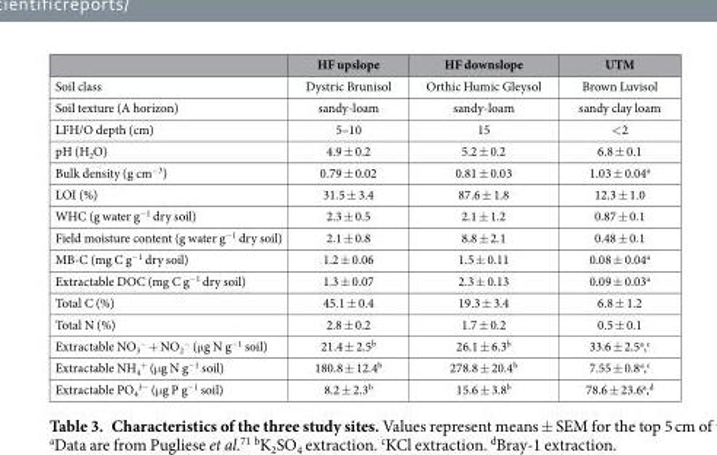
<table><thead><tr><td></td><td>HF upslope</td><td>HF downslope</td><td>UTM</td></tr></thead><tbody><tr><td>Soil class</td><td>Dystric Brunisol</td><td>Orthic Humic Gleysol</td><td>Brown Luvisol</td></tr><tr><td>Soil texture (A horizon)</td><td>sandy-loam</td><td>sandy-loam</td><td>sandy clay loam</td></tr><tr><td>LFH/O depth (cm)</td><td>5–10</td><td>15</td><td>&lt; 2</td></tr><tr><td>pH (H<sub>2</sub>O)</td><td>4.9 ± 0.2</td><td>5.2 ± 0.2</td><td>6.8 ± 0.1</td></tr><tr><td>Bulk density (g cm<sup>−3</sup>)</td><td>0.79 ± 0.02</td><td>0.81 ± 0.03</td><td>1.03 ± 0.04<sup>a</sup></td></tr><tr><td>LOI (%)</td><td>31.5 ± 3.4</td><td>87.6 ± 1.8</td><td>12.3 ± 1.0</td></tr><tr><td>WHC (g water g<sup>−1</sup> dry soil)</td><td>2.3 ± 0.5</td><td>2.1 ± 1.2</td><td>0.87 ± 0.1</td></tr><tr><td>Field moisture content (g water g<sup>−1</sup> dry soil)</td><td>2.1 ± 0.8</td><td>8.8 ± 2.1</td><td>0.48 ± 0.1</td></tr><tr><td>MB-C (mg C g<sup>−1</sup> dry soil)</td><td>1.2 ± 0.06</td><td>1.5 ± 0.11</td><td>0.08 ± 0.04<sup>a</sup></td></tr><tr><td>Extractable DOC (mg C g<sup>−1</sup> dry soil)</td><td>1.3 ± 0.07</td><td>2.3 ± 0.13</td><td>0.09 ± 0.03<sup>a</sup></td></tr><tr><td>Total C (%)</td><td>45.1 ± 0.4</td><td>19.3 ± 3.4</td><td>6.8 ± 1.2</td></tr><tr><td>Total N (%)</td><td>2.8 ± 0.2</td><td>1.7 ± 0.2</td><td>0.5 ± 0.1</td></tr><tr><td>Extractable NO<sub>3</sub> <sup>−</sup> + NO<sub>2</sub> <sup>−</sup> (μ g N g<sup>−1</sup> soil)</td><td>21.4 ± 2.5<sup>b</sup></td><td>26.1 ± 6.3<sup>b</sup></td><td>33.6 ± 2.5<sup>a</sup>,<sup>c</sup></td></tr><tr><td>Extractable NH<sub>4</sub> <sup>+</sup> (μ g N g<sup>−1</sup> soil)</td><td>180.8 ± 12.4<sup>b</sup></td><td>278.8 ± 20.4<sup>b</sup></td><td>7.55 ± 0.8<sup>a</sup>,<sup>c</sup></td></tr><tr><td>Extractable PO<sub>4</sub> <sup>3−</sup> (μ g P g<sup>−1</sup> soil)</td><td>8.2 ± 2.3<sup>b</sup></td><td>15.6 ± 3.8<sup>b</sup></td><td>78.6 ± 23.6<sup>a</sup>,<sup>d</sup></td></tr></tbody></table>